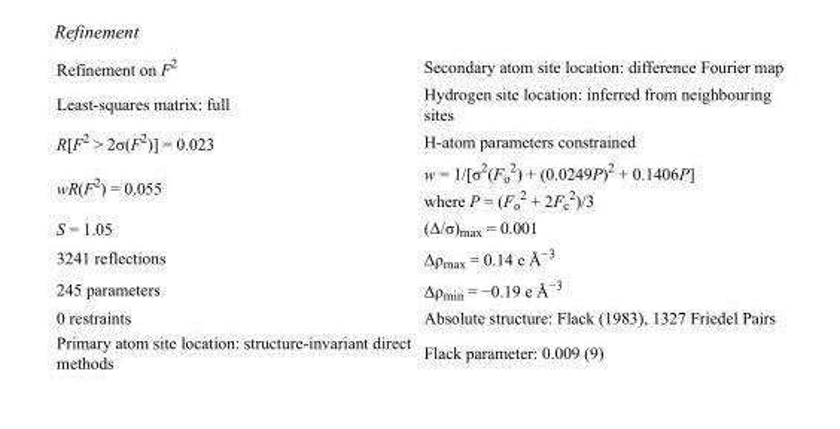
<table><tbody><tr><td>Refinement on F<sup>2</sup></td><td>Secondary atom site location: difference Fourier map</td></tr><tr><td>Least-squares matrix: full</td><td>Hydrogen site location: inferred from neighbouring sites</td></tr><tr><td>R[F<sup>2</sup> &gt; 2σ(F<sup>2</sup>)] = 0.023</td><td>H-atom parameters constrained</td></tr><tr><td>wR(F<sup>2</sup>) = 0.055</td><td>w = 1/[σ<sup>2</sup>(F<sub>o</sub> <sup>2</sup>) + (0.0249P)<sup>2</sup> + 0.1406P] where P = (F<sub>o</sub> <sup>2</sup> + 2F<sub>c</sub> <sup>2</sup>)/3</td></tr><tr><td>S = 1.05</td><td>(Δ/σ)<sub>max</sub> = 0.001</td></tr><tr><td>3241 reflections</td><td>Δρ<sub>max</sub> = 0.14 e Å<sup>−3</sup></td></tr><tr><td>245 parameters</td><td>Δρ<sub>min</sub> = −0.19 e Å<sup>−3</sup></td></tr><tr><td>0 restraints</td><td>Absolute structure: Flack (1983), 1327 Friedel Pairs</td></tr><tr><td>Primary atom site location: structure-invariant direct methods</td><td>Flack parameter: 0.009 (9)</td></tr></tbody></table>